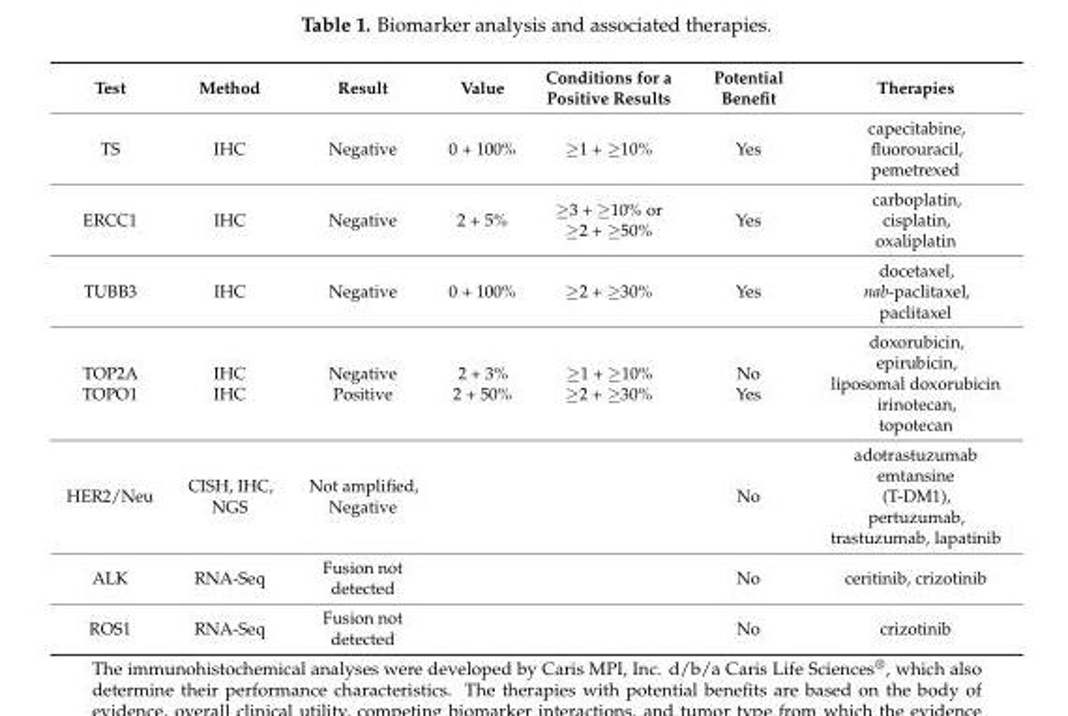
<table><thead><tr><td>Test</td><td>Method</td><td>Result</td><td>Value</td><td>Conditions for a Positive Results</td><td>Potential Benefit</td><td>Therapies</td></tr></thead><tbody><tr><td>TS</td><td>IHC</td><td>Negative</td><td>0 + 100%</td><td>≥1 + ≥10%</td><td>Yes</td><td>capecitabine, fluorouracil, pemetrexed</td></tr><tr><td>ERCC1</td><td>IHC</td><td>Negative</td><td>2 + 5%</td><td>≥3 + ≥10% or ≥2 + ≥50%</td><td>Yes</td><td>carboplatin, cisplatin, oxaliplatin</td></tr><tr><td>TUBB3</td><td>IHC</td><td>Negative</td><td>0 + 100%</td><td>≥2 + ≥30%</td><td>Yes</td><td>docetaxel, nab-paclitaxel, paclitaxel</td></tr><tr><td>TOP2A TOPO1</td><td>IHC IHC</td><td>Negative Positive</td><td>2 + 3% 2 + 50%</td><td>≥1 + ≥10% ≥2 + ≥30%</td><td>No Yes</td><td>doxorubicin, epirubicin, liposomal doxorubicin irinotecan, topotecan</td></tr><tr><td>HER2/Neu</td><td>CISH, IHC, NGS</td><td>Not amplified, Negative</td><td></td><td></td><td>No</td><td>adotrastuzumab emtansine (T-DM1), pertuzumab, trastuzumab, lapatinib</td></tr><tr><td>ALK</td><td>RNA-Seq</td><td>Fusion not detected</td><td></td><td></td><td>No</td><td>ceritinib, crizotinib</td></tr><tr><td>ROS1</td><td>RNA-Seq</td><td>Fusion not detected</td><td></td><td></td><td>No</td><td>crizotinib</td></tr></tbody></table>